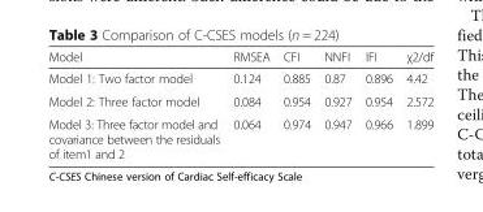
<table><thead><tr><td>Model</td><td>RMSEA</td><td>CFI</td><td>NNFI</td><td>IFI</td><td>χ2/df</td></tr></thead><tbody><tr><td>Model 1: Two factor model</td><td>0.124</td><td>0.885</td><td>0.87</td><td>0.896</td><td>4.42</td></tr><tr><td>Model 2: Three factor model</td><td>0.084</td><td>0.954</td><td>0.927</td><td>0.954</td><td>2.572</td></tr><tr><td>Model 3: Three factor model and covariance between the residuals of item1 and 2</td><td>0.064</td><td>0.974</td><td>0.947</td><td>0.966</td><td>1.899</td></tr></tbody></table>